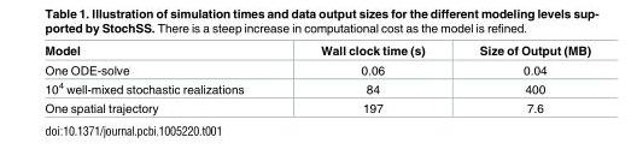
<table><thead><tr><td>Model</td><td>Wall clock time (s)</td><td>Size of Output (MB)</td></tr></thead><tbody><tr><td>One ODE-solve</td><td>0.06</td><td>0.04</td></tr><tr><td>10<sup>4</sup> well-mixed stochastic realizations</td><td>84</td><td>400</td></tr><tr><td>One spatial trajectory</td><td>197</td><td>7.6</td></tr></tbody></table>